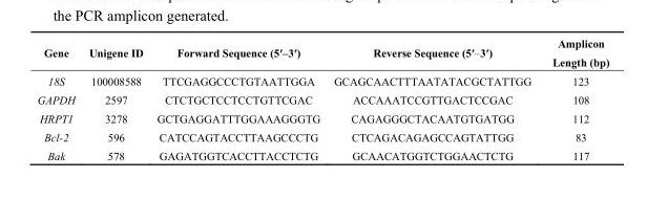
<table><thead><tr><td>Gene</td><td>Unigene ID</td><td>Forward Sequence (5′–3′)</td><td>Reverse Sequence (5′–3′)</td><td>Amplicon Length (bp)</td></tr></thead><tbody><tr><td>18S</td><td>100008588</td><td>TTCGAGGCCCTGTAATTGGA</td><td>GCAGCAACTTTAATATACGCTATTGG</td><td>123</td></tr><tr><td>GAPDH</td><td>2597</td><td>CTCTGCTCCTCCTGTTCGAC</td><td>ACCAAATCCGTTGACTCCGAC</td><td>108</td></tr><tr><td>HRPT1</td><td>3278</td><td>GCTGAGGATTTGGAAAGGGTG</td><td>CAGAGGGCTACAATGTGATGG</td><td>112</td></tr><tr><td>Bcl-2</td><td>596</td><td>CATCCAGTACCTTAAGCCCTG</td><td>CTCAGACAGAGCCAGTATTGG</td><td>83</td></tr><tr><td>Bak</td><td>578</td><td>GAGATGGTCACCTTACCTCTG</td><td>GCAACATGGTCTGGAACTCTG</td><td>117</td></tr></tbody></table>